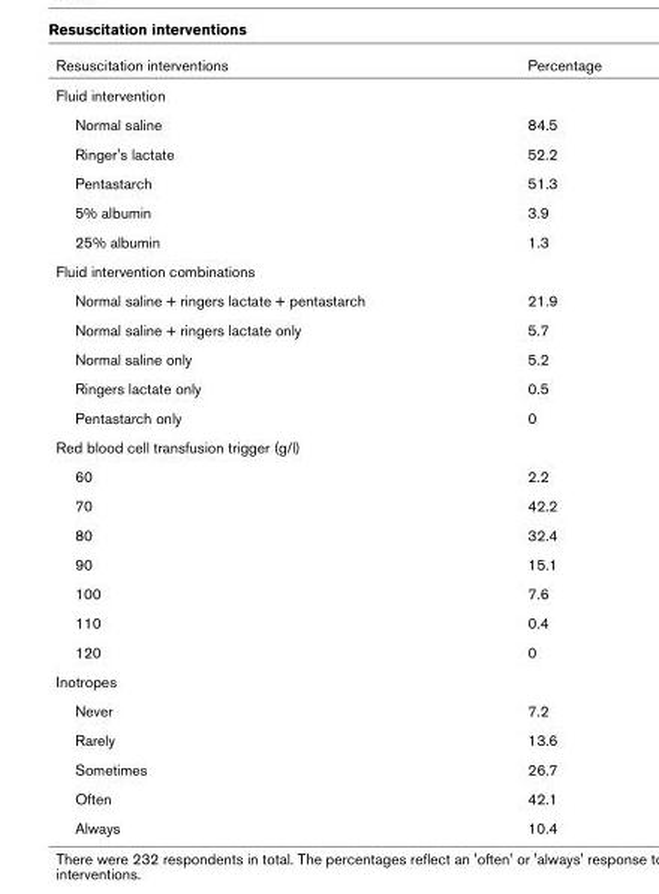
<table><thead><tr><td>Resuscitation interventions</td><td>Percentage</td></tr></thead><tbody><tr><td colspan="2">Fluid intervention</td></tr><tr><td>Normal saline</td><td>84.5</td></tr><tr><td>Ringer&#x27;s lactate</td><td>52.2</td></tr><tr><td>Pentastarch</td><td>51.3</td></tr><tr><td>5% albumin</td><td>3.9</td></tr><tr><td>25% albumin</td><td>1.3</td></tr><tr><td colspan="2">Fluid intervention combinations</td></tr><tr><td>Normal saline + ringers lactate + pentastarch</td><td>21.9</td></tr><tr><td>Normal saline + ringers lactate only</td><td>5.7</td></tr><tr><td>Normal saline only</td><td>5.2</td></tr><tr><td>Ringers lactate only</td><td>0.5</td></tr><tr><td>Pentastarch only</td><td>0</td></tr><tr><td colspan="2">Red blood cell transfusion trigger (g/l)</td></tr><tr><td>60</td><td>2.2</td></tr><tr><td>70</td><td>42.2</td></tr><tr><td>80</td><td>32.4</td></tr><tr><td>90</td><td>15.1</td></tr><tr><td>100</td><td>7.6</td></tr><tr><td>110</td><td>0.4</td></tr><tr><td>120</td><td>0</td></tr><tr><td colspan="2">Inotropes</td></tr><tr><td>Never</td><td>7.2</td></tr><tr><td>Rarely</td><td>13.6</td></tr><tr><td>Sometimes</td><td>26.7</td></tr><tr><td>Often</td><td>42.1</td></tr><tr><td>Always</td><td>10.4</td></tr></tbody></table>